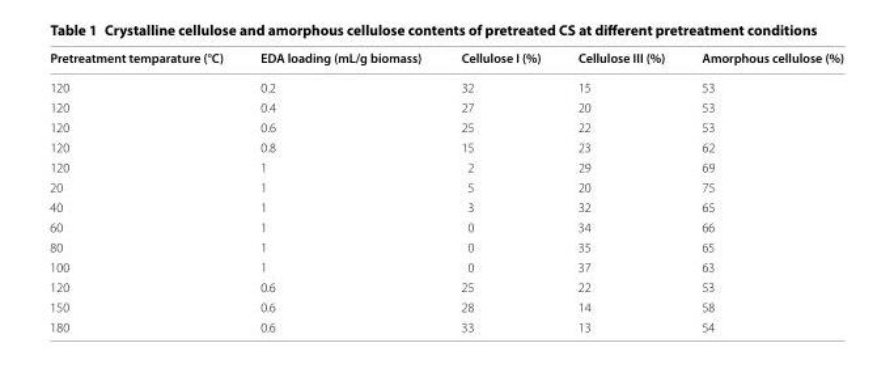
<table><thead><tr><td>Pretreatment temparature (°C)</td><td>EDA loading (mL/g biomass)</td><td>Cellulose I (%)</td><td>Cellulose III (%)</td><td>Amorphous cellulose (%)</td></tr></thead><tbody><tr><td>120</td><td>0.2</td><td>32</td><td>15</td><td>53</td></tr><tr><td>120</td><td>0.4</td><td>27</td><td>20</td><td>53</td></tr><tr><td>120</td><td>0.6</td><td>25</td><td>22</td><td>53</td></tr><tr><td>120</td><td>0.8</td><td>15</td><td>23</td><td>62</td></tr><tr><td>120</td><td>1</td><td>2</td><td>29</td><td>69</td></tr><tr><td>20</td><td>1</td><td>5</td><td>20</td><td>75</td></tr><tr><td>40</td><td>1</td><td>3</td><td>32</td><td>65</td></tr><tr><td>60</td><td>1</td><td>0</td><td>34</td><td>66</td></tr><tr><td>80</td><td>1</td><td>0</td><td>35</td><td>65</td></tr><tr><td>100</td><td>1</td><td>0</td><td>37</td><td>63</td></tr><tr><td>120</td><td>0.6</td><td>25</td><td>22</td><td>53</td></tr><tr><td>150</td><td>0.6</td><td>28</td><td>14</td><td>58</td></tr><tr><td>180</td><td>0.6</td><td>33</td><td>13</td><td>54</td></tr></tbody></table>